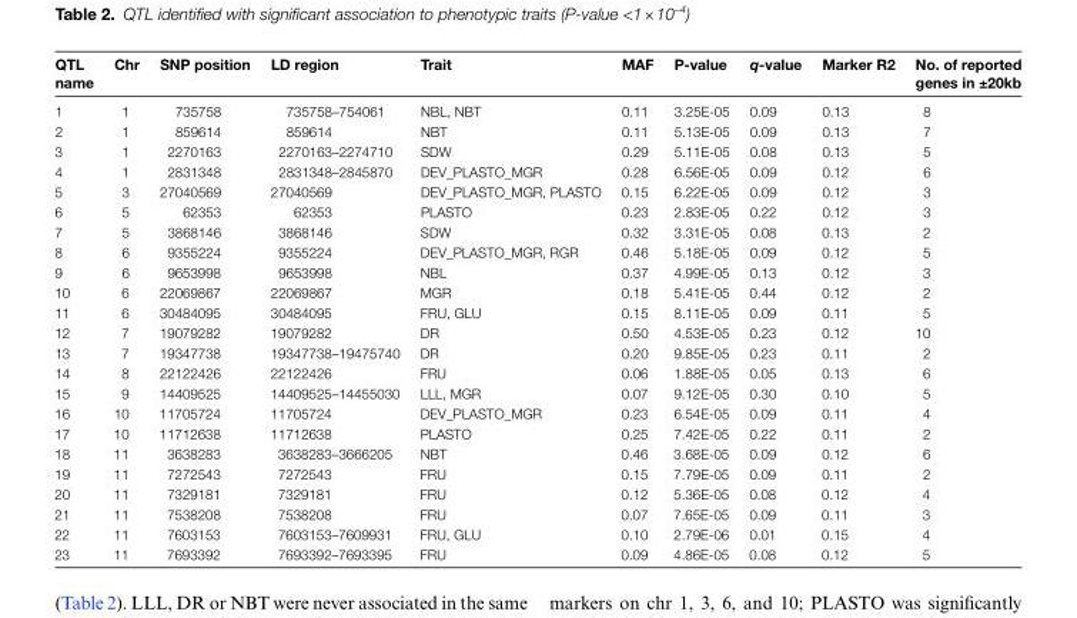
<table><thead><tr><td>QTL name</td><td>Chr</td><td>SNP position</td><td>LD region</td><td>Trait</td><td>MAF</td><td>P-value</td><td>q-value</td><td>Marker R2</td><td>No. of reported genes in ±20kb</td></tr></thead><tbody><tr><td>1</td><td>1</td><td>735758</td><td>735758–754061</td><td>NBL, NBT</td><td>0.11</td><td>3.25E-05</td><td>0.09</td><td>0.13</td><td>8</td></tr><tr><td>2</td><td>1</td><td>859614</td><td>859614</td><td>NBT</td><td>0.11</td><td>5.13E-05</td><td>0.09</td><td>0.13</td><td>7</td></tr><tr><td>3</td><td>1</td><td>2270163</td><td>2270163–2274710</td><td>SDW</td><td>0.29</td><td>5.11E-05</td><td>0.08</td><td>0.13</td><td>5</td></tr><tr><td>4</td><td>1</td><td>2831348</td><td>2831348–2845870</td><td>DEV_PLASTO_MGR</td><td>0.28</td><td>6.56E-05</td><td>0.09</td><td>0.12</td><td>6</td></tr><tr><td>5</td><td>3</td><td>27040569</td><td>27040569</td><td>DEV_PLASTO_MGR, PLASTO</td><td>0.15</td><td>6.22E-05</td><td>0.09</td><td>0.12</td><td>3</td></tr><tr><td>6</td><td>5</td><td>62353</td><td>62353</td><td>PLASTO</td><td>0.23</td><td>2.83E-05</td><td>0.22</td><td>0.12</td><td>3</td></tr><tr><td>7</td><td>5</td><td>3868146</td><td>3868146</td><td>SDW</td><td>0.32</td><td>3.31E-05</td><td>0.08</td><td>0.13</td><td>2</td></tr><tr><td>8</td><td>6</td><td>9355224</td><td>9355224</td><td>DEV_PLASTO_MGR, RGR</td><td>0.46</td><td>5.18E-05</td><td>0.09</td><td>0.12</td><td>5</td></tr><tr><td>9</td><td>6</td><td>9653998</td><td>9653998</td><td>NBL</td><td>0.37</td><td>4.99E-05</td><td>0.13</td><td>0.12</td><td>3</td></tr><tr><td>10</td><td>6</td><td>22069867</td><td>22069867</td><td>MGR</td><td>0.18</td><td>5.41E-05</td><td>0.44</td><td>0.12</td><td>2</td></tr><tr><td>11</td><td>6</td><td>30484095</td><td>30484095</td><td>FRU, GLU</td><td>0.15</td><td>8.11E-05</td><td>0.09</td><td>0.11</td><td>5</td></tr><tr><td>12</td><td>7</td><td>19079282</td><td>19079282</td><td>DR</td><td>0.50</td><td>4.53E-05</td><td>0.23</td><td>0.12</td><td>10</td></tr><tr><td>13</td><td>7</td><td>19347738</td><td>19347738–19475740</td><td>DR</td><td>0.20</td><td>9.85E-05</td><td>0.23</td><td>0.11</td><td>2</td></tr><tr><td>14</td><td>8</td><td>22122426</td><td>22122426</td><td>FRU</td><td>0.06</td><td>1.88E-05</td><td>0.05</td><td>0.13</td><td>6</td></tr><tr><td>15</td><td>9</td><td>14409525</td><td>14409525–14455030</td><td>LLL, MGR</td><td>0.07</td><td>9.12E-05</td><td>0.30</td><td>0.10</td><td>5</td></tr><tr><td>16</td><td>10</td><td>11705724</td><td>11705724</td><td>DEV_PLASTO_MGR</td><td>0.23</td><td>6.54E-05</td><td>0.09</td><td>0.11</td><td>4</td></tr><tr><td>17</td><td>10</td><td>11712638</td><td>11712638</td><td>PLASTO</td><td>0.25</td><td>7.42E-05</td><td>0.22</td><td>0.11</td><td>2</td></tr><tr><td>18</td><td>11</td><td>3638283</td><td>3638283–3666205</td><td>NBT</td><td>0.46</td><td>3.68E-05</td><td>0.09</td><td>0.12</td><td>6</td></tr><tr><td>19</td><td>11</td><td>7272543</td><td>7272543</td><td>FRU</td><td>0.15</td><td>7.79E-05</td><td>0.09</td><td>0.11</td><td>2</td></tr><tr><td>20</td><td>11</td><td>7329181</td><td>7329181</td><td>FRU</td><td>0.12</td><td>5.36E-05</td><td>0.08</td><td>0.12</td><td>4</td></tr><tr><td>21</td><td>11</td><td>7538208</td><td>7538208</td><td>FRU</td><td>0.07</td><td>7.65E-05</td><td>0.09</td><td>0.11</td><td>3</td></tr><tr><td>22</td><td>11</td><td>7603153</td><td>7603153–7609931</td><td>FRU, GLU</td><td>0.10</td><td>2.79E-06</td><td>0.01</td><td>0.15</td><td>4</td></tr><tr><td>23</td><td>11</td><td>7693392</td><td>7693392–7693395</td><td>FRU</td><td>0.09</td><td>4.86E-05</td><td>0.08</td><td>0.12</td><td>5</td></tr></tbody></table>